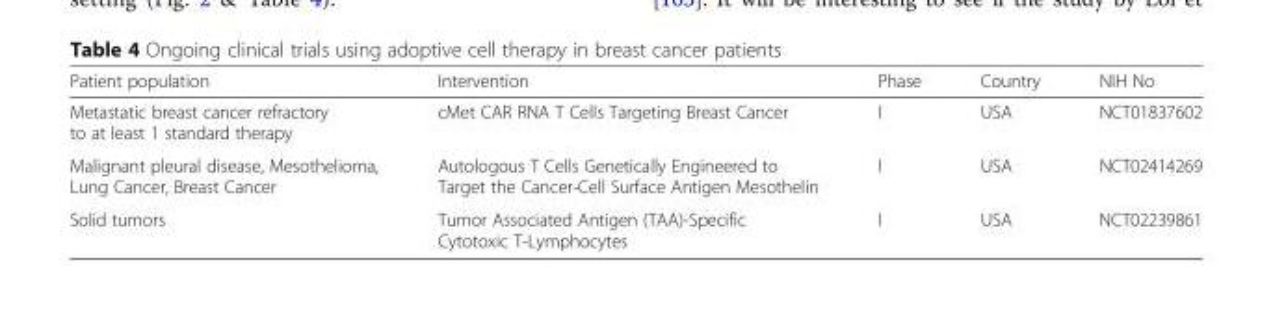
<table><thead><tr><td>Patient population</td><td>Intervention</td><td>Phase</td><td>Country</td><td>NIH No</td></tr></thead><tbody><tr><td>Metastatic breast cancer refractory to at least 1 standard therapy</td><td>cMet CAR RNA T Cells Targeting Breast Cancer</td><td>I</td><td>USA</td><td>NCT01837602</td></tr><tr><td>Malignant pleural disease, Mesothelioma, Lung Cancer, Breast Cancer</td><td>Autologous T Cells Genetically Engineered to Target the Cancer-Cell Surface Antigen Mesothelin</td><td>I</td><td>USA</td><td>NCT02414269</td></tr><tr><td>Solid tumors</td><td>Tumor Associated Antigen (TAA)-Specific Cytotoxic T-Lymphocytes</td><td>I</td><td>USA</td><td>NCT02239861</td></tr></tbody></table>